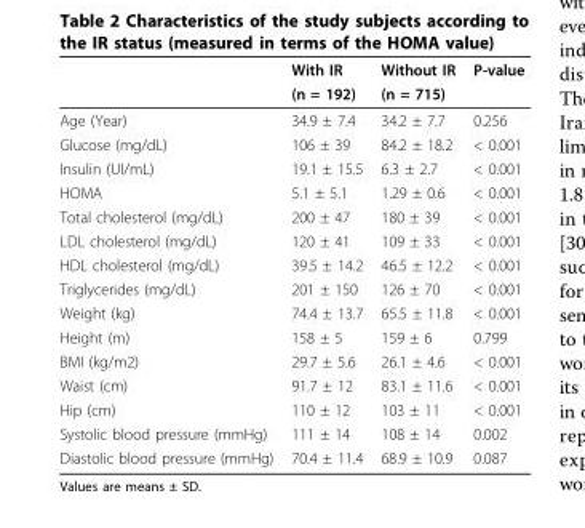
<table><thead><tr><td rowspan="2"></td><td rowspan="2">With IR (n = 192)</td><td rowspan="2">Without IR (n = 715)</td><td rowspan="2">P-value</td></tr><tr></tr></thead><tbody><tr><td>Age (Year)</td><td>34.9 ± 7.4</td><td>34.2 ± 7.7</td><td>0.256</td></tr><tr><td>Glucose (mg/dL)</td><td>106 ± 39</td><td>84.2 ± 18.2</td><td>&lt; 0.001</td></tr><tr><td>Insulin (UI/mL)</td><td>19.1 ± 15.5</td><td>6.3 ± 2.7</td><td>&lt; 0.001</td></tr><tr><td>HOMA</td><td>5.1 ± 5.1</td><td>1.29 ± 0.6</td><td>&lt; 0.001</td></tr><tr><td>Total cholesterol (mg/dL)</td><td>200 ± 47</td><td>180 ± 39</td><td>&lt; 0.001</td></tr><tr><td>LDL cholesterol (mg/dL)</td><td>120 ± 41</td><td>109 ± 33</td><td>&lt; 0.001</td></tr><tr><td>HDL cholesterol (mg/dL)</td><td>39.5 ± 14.2</td><td>46.5 ± 12.2</td><td>&lt; 0.001</td></tr><tr><td>Triglycerides (mg/dL)</td><td>201 ± 150</td><td>126 ± 70</td><td>&lt; 0.001</td></tr><tr><td>Weight (kg)</td><td>74.4 ± 13.7</td><td>65.5 ± 11.8</td><td>&lt; 0.001</td></tr><tr><td>Height (m)</td><td>158 ± 5</td><td>159 ± 6</td><td>0.799</td></tr><tr><td>BMI (kg/m2)</td><td>29.7 ± 5.6</td><td>26.1 ± 4.6</td><td>&lt; 0.001</td></tr><tr><td>Waist (cm)</td><td>91.7 ± 12</td><td>83.1 ± 11.6</td><td>&lt; 0.001</td></tr><tr><td>Hip (cm)</td><td>110 ± 12</td><td>103 ± 11</td><td>&lt; 0.001</td></tr><tr><td>Systolic blood pressure (mmHg)</td><td>111 ± 14</td><td>108 ± 14</td><td>0.002</td></tr><tr><td>Diastolic blood pressure (mmHg)</td><td>70.4 ± 11.4</td><td>68.9 ± 10.9</td><td>0.087</td></tr></tbody></table>